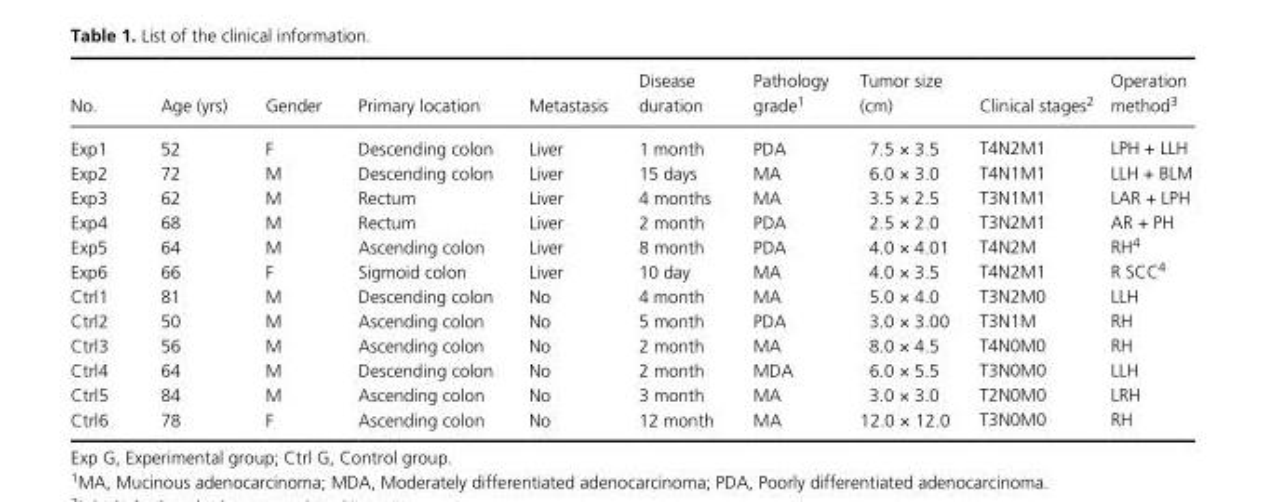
<table><thead><tr><td>No.</td><td>Age (yrs)</td><td>Gender</td><td>Primary location</td><td>Metastasis</td><td>Disease duration</td><td>Pathology grade1</td><td>Tumor size (cm)</td><td>Clinical stages2</td><td>Operation method3</td></tr></thead><tbody><tr><td>Exp1</td><td>52</td><td>F</td><td>Descending colon</td><td>Liver</td><td>1 month</td><td>PDA</td><td>7.5 × 3.5</td><td>T4N2M1</td><td>LPH + LLH</td></tr><tr><td>Exp2</td><td>72</td><td>M</td><td>Descending colon</td><td>Liver</td><td>15 days</td><td>MA</td><td>6.0 × 3.0</td><td>T4N1M1</td><td>LLH + BLM</td></tr><tr><td>Exp3</td><td>62</td><td>M</td><td>Rectum</td><td>Liver</td><td>4 months</td><td>MA</td><td>3.5 × 2.5</td><td>T3N1M1</td><td>LAR + LPH</td></tr><tr><td>Exp4</td><td>68</td><td>M</td><td>Rectum</td><td>Liver</td><td>2 month</td><td>PDA</td><td>2.5 × 2.0</td><td>T3N2M1</td><td>AR + PH</td></tr><tr><td>Exp5</td><td>64</td><td>M</td><td>Ascending colon</td><td>Liver</td><td>8 month</td><td>PDA</td><td>4.0 × 4.01</td><td>T4N2M</td><td>RH4</td></tr><tr><td>Exp6</td><td>66</td><td>F</td><td>Sigmoid colon</td><td>Liver</td><td>10 day</td><td>MA</td><td>4.0 × 3.5</td><td>T4N2M1</td><td>R SCC4</td></tr><tr><td>Ctrl1</td><td>81</td><td>M</td><td>Descending colon</td><td>No</td><td>4 month</td><td>MA</td><td>5.0 × 4.0</td><td>T3N2M0</td><td>LLH</td></tr><tr><td>Ctrl2</td><td>50</td><td>M</td><td>Ascending colon</td><td>No</td><td>5 month</td><td>PDA</td><td>3.0 × 3.00</td><td>T3N1M</td><td>RH</td></tr><tr><td>Ctrl3</td><td>56</td><td>M</td><td>Ascending colon</td><td>No</td><td>2 month</td><td>MA</td><td>8.0 × 4.5</td><td>T4N0M0</td><td>RH</td></tr><tr><td>Ctrl4</td><td>64</td><td>M</td><td>Descending colon</td><td>No</td><td>2 month</td><td>MDA</td><td>6.0 × 5.5</td><td>T3N0M0</td><td>LLH</td></tr><tr><td>Ctrl5</td><td>84</td><td>M</td><td>Ascending colon</td><td>No</td><td>3 month</td><td>MA</td><td>3.0 × 3.0</td><td>T2N0M0</td><td>LRH</td></tr><tr><td>Ctrl6</td><td>78</td><td>F</td><td>Ascending colon</td><td>No</td><td>12 month</td><td>MA</td><td>12.0 × 12.0</td><td>T3N0M0</td><td>RH</td></tr></tbody></table>